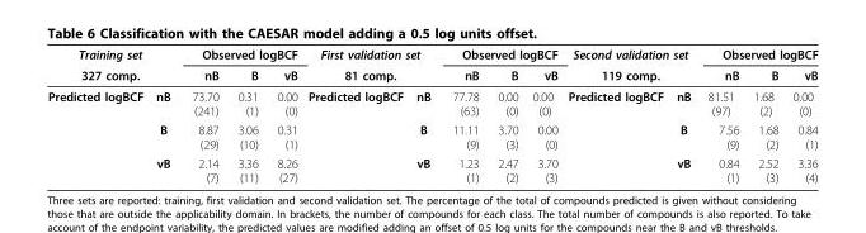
<table><thead><tr><td rowspan="2" colspan="2">Training set 327 comp.</td><td colspan="3">Observed logBCF</td><td rowspan="2" colspan="2">First validation set 81 comp.</td><td colspan="3">Observed logBCF</td><td rowspan="2" colspan="2">Second validation set 119 comp.</td><td colspan="3">Observed logBCF</td></tr><tr><td rowspan="2">nB 73.70 (241)</td><td rowspan="2">B 0.31 (1)</td><td rowspan="2">vB 0.00 (0)</td><td rowspan="2">nB 77.78 (63)</td><td rowspan="2">B 0.00 (0)</td><td rowspan="2">vB 0.00 (0)</td><td rowspan="2">nB 81.51 (97)</td><td rowspan="2">B 1.68 (2)</td><td rowspan="2">vB 0.00 (0)</td></tr><tr><td>Predicted logBCF</td><td>nB</td><td>Predicted logBCF</td><td>nB</td><td>Predicted logBCF</td><td>nB</td></tr></thead><tbody><tr><td></td><td>B</td><td>8.87 (29)</td><td>3.06 (10)</td><td>0.31 (1)</td><td></td><td>B</td><td>11.11 (9)</td><td>3.70 (3)</td><td>0.00 (0)</td><td></td><td>B</td><td>7.56 (9)</td><td>1.68 (2)</td><td>0.84 (1)</td></tr><tr><td></td><td>vB</td><td>2.14 (7)</td><td>3.36 (11)</td><td>8.26 (27)</td><td></td><td>vB</td><td>1.23 (1)</td><td>2.47 (2)</td><td>3.70 (3)</td><td></td><td>vB</td><td>0.84 (1)</td><td>2.52 (3)</td><td>3.36 (4)</td></tr></tbody></table>